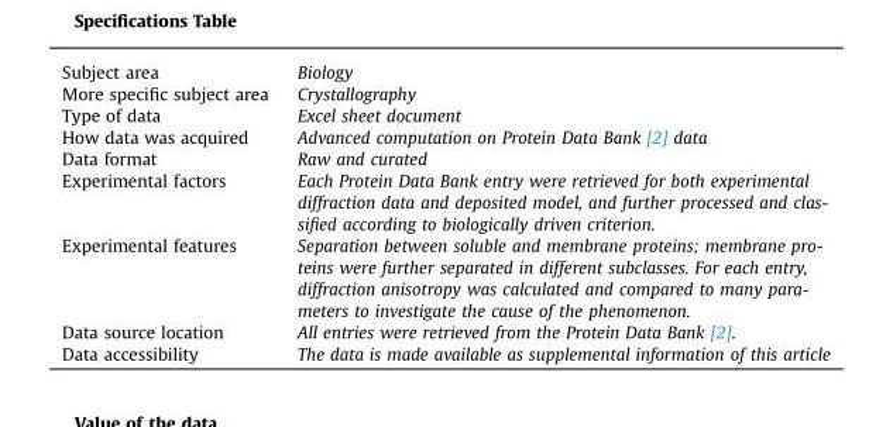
<table><tbody><tr><td>Subject area</td><td>Biology</td></tr><tr><td>More specific subject area</td><td>Crystallography</td></tr><tr><td>Type of data</td><td>Excel sheet document</td></tr><tr><td>How data was acquired</td><td>Advanced computation on Protein Data Bank [2] data</td></tr><tr><td>Data format</td><td>Raw and curated</td></tr><tr><td>Experimental factors</td><td>Each Protein Data Bank entry were retrieved for both experimental diffraction data and deposited model, and further processed and clas- sified according to biologically driven criterion.</td></tr><tr><td>Experimental features</td><td>Separation between soluble and membrane proteins; membrane pro- teins were further separated in different subclasses. For each entry, diffraction anisotropy was calculated and compared to many para- meters to investigate the cause of the phenomenon.</td></tr><tr><td>Data source location</td><td>All entries were retrieved from the Protein Data Bank [2].</td></tr><tr><td>Data accessibility</td><td>The data is made available as supplemental information of this article</td></tr></tbody></table>